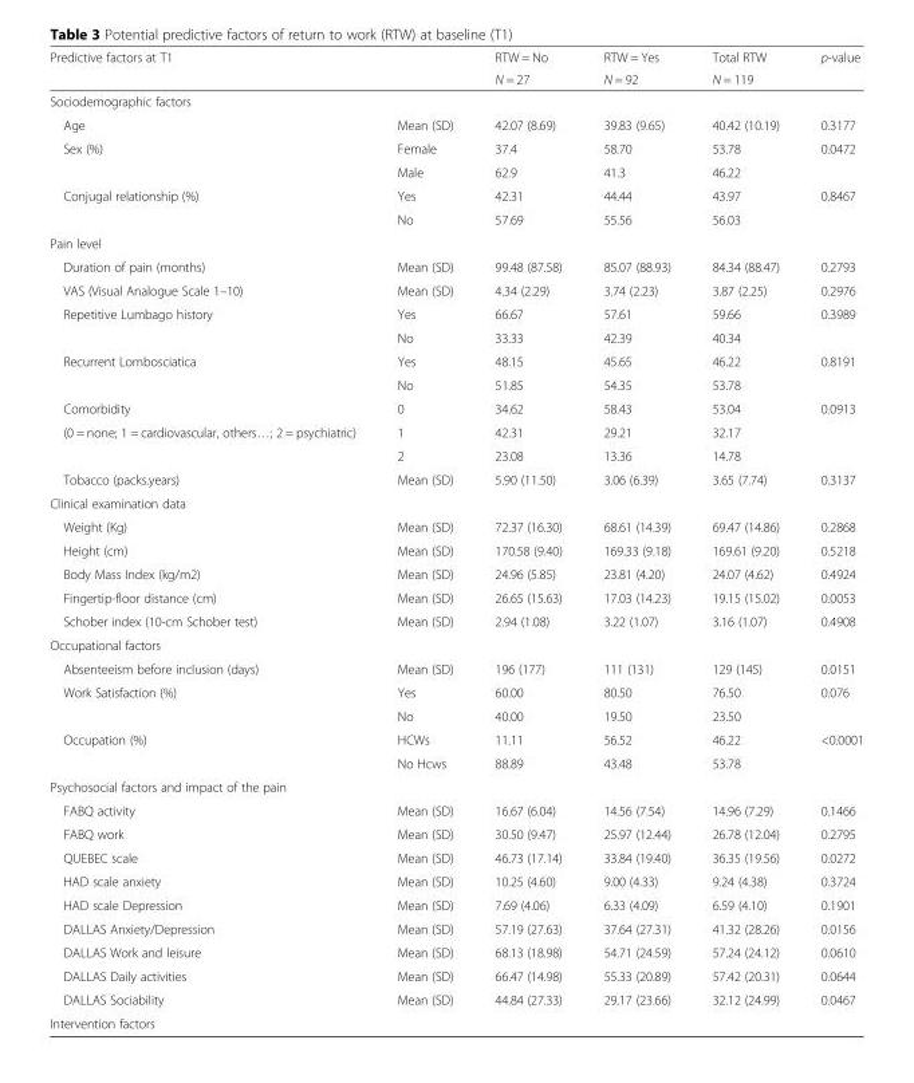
<table><thead><tr><td colspan="2">Predictive factors at T1</td><td rowspan="2">RTW = No N = 27</td><td rowspan="2">RTW = Yes N = 92</td><td rowspan="2">Total RTW N = 119</td><td rowspan="2">p-value</td></tr><tr><td></td><td></td></tr></thead><tbody><tr><td colspan="6">Sociodemographic factors</td></tr><tr><td>Age</td><td>Mean (SD)</td><td>42.07 (8.69)</td><td>39.83 (9.65)</td><td>40.42 (10.19)</td><td>0.3177</td></tr><tr><td rowspan="2">Sex (%)</td><td>Female</td><td>37.4</td><td>58.70</td><td>53.78</td><td>0.0472</td></tr><tr><td>Male</td><td>62.9</td><td>41.3</td><td>46.22</td><td></td></tr><tr><td rowspan="2">Conjugal relationship (%)</td><td>Yes</td><td>42.31</td><td>44.44</td><td>43.97</td><td>0.8467</td></tr><tr><td>No</td><td>57.69</td><td>55.56</td><td>56.03</td><td></td></tr><tr><td colspan="6">Pain level</td></tr><tr><td>Duration of pain (months)</td><td>Mean (SD)</td><td>99.48 (87.58)</td><td>85.07 (88.93)</td><td>84.34 (88.47)</td><td>0.2793</td></tr><tr><td>VAS (Visual Analogue Scale 1–10)</td><td>Mean (SD)</td><td>4.34 (2.29)</td><td>3.74 (2.23)</td><td>3.87 (2.25)</td><td>0.2976</td></tr><tr><td rowspan="2">Repetitive Lumbago history</td><td>Yes</td><td>66.67</td><td>57.61</td><td>59.66</td><td>0.3989</td></tr><tr><td>No</td><td>33.33</td><td>42.39</td><td>40.34</td><td></td></tr><tr><td rowspan="2">Recurrent Lombosciatica</td><td>Yes</td><td>48.15</td><td>45.65</td><td>46.22</td><td>0.8191</td></tr><tr><td>No</td><td>51.85</td><td>54.35</td><td>53.78</td><td></td></tr><tr><td>Comorbidity</td><td>0</td><td>34.62</td><td>58.43</td><td>53.04</td><td>0.0913</td></tr><tr><td rowspan="2">(0 = none; 1 = cardiovascular, others…; 2 = psychiatric)</td><td>1</td><td>42.31</td><td>29.21</td><td>32.17</td><td></td></tr><tr><td>2</td><td>23.08</td><td>13.36</td><td>14.78</td><td></td></tr><tr><td>Tobacco (packs.years)</td><td>Mean (SD)</td><td>5.90 (11.50)</td><td>3.06 (6.39)</td><td>3.65 (7.74)</td><td>0.3137</td></tr><tr><td colspan="6">Clinical examination data</td></tr><tr><td>Weight (Kg)</td><td>Mean (SD)</td><td>72.37 (16.30)</td><td>68.61 (14.39)</td><td>69.47 (14.86)</td><td>0.2868</td></tr><tr><td>Height (cm)</td><td>Mean (SD)</td><td>170.58 (9.40)</td><td>169.33 (9.18)</td><td>169.61 (9.20)</td><td>0.5218</td></tr><tr><td>Body Mass Index (kg/m2)</td><td>Mean (SD)</td><td>24.96 (5.85)</td><td>23.81 (4.20)</td><td>24.07 (4.62)</td><td>0.4924</td></tr><tr><td>Fingertip-floor distance (cm)</td><td>Mean (SD)</td><td>26.65 (15.63)</td><td>17.03 (14.23)</td><td>19.15 (15.02)</td><td>0.0053</td></tr><tr><td>Schober index (10-cm Schober test)</td><td>Mean (SD)</td><td>2.94 (1.08)</td><td>3.22 (1.07)</td><td>3.16 (1.07)</td><td>0.4908</td></tr><tr><td colspan="6">Occupational factors</td></tr><tr><td>Absenteeism before inclusion (days)</td><td>Mean (SD)</td><td>196 (177)</td><td>111 (131)</td><td>129 (145)</td><td>0.0151</td></tr><tr><td rowspan="2">Work Satisfaction (%)</td><td>Yes</td><td>60.00</td><td>80.50</td><td>76.50</td><td>0.076</td></tr><tr><td>No</td><td>40.00</td><td>19.50</td><td>23.50</td><td></td></tr><tr><td rowspan="2">Occupation (%)</td><td>HCWs</td><td>11.11</td><td>56.52</td><td>46.22</td><td>&lt;0.0001</td></tr><tr><td>No Hcws</td><td>88.89</td><td>43.48</td><td>53.78</td><td></td></tr><tr><td colspan="6">Psychosocial factors and impact of the pain</td></tr><tr><td>FABQ activity</td><td>Mean (SD)</td><td>16.67 (6.04)</td><td>14.56 (7.54)</td><td>14.96 (7.29)</td><td>0.1466</td></tr><tr><td>FABQ work</td><td>Mean (SD)</td><td>30.50 (9.47)</td><td>25.97 (12.44)</td><td>26.78 (12.04)</td><td>0.2795</td></tr><tr><td>QUEBEC scale</td><td>Mean (SD)</td><td>46.73 (17.14)</td><td>33.84 (19.40)</td><td>36.35 (19.56)</td><td>0.0272</td></tr><tr><td>HAD scale anxiety</td><td>Mean (SD)</td><td>10.25 (4.60)</td><td>9.00 (4.33)</td><td>9.24 (4.38)</td><td>0.3724</td></tr><tr><td>HAD scale Depression</td><td>Mean (SD)</td><td>7.69 (4.06)</td><td>6.33 (4.09)</td><td>6.59 (4.10)</td><td>0.1901</td></tr><tr><td>DALLAS Anxiety/Depression</td><td>Mean (SD)</td><td>57.19 (27.63)</td><td>37.64 (27.31)</td><td>41.32 (28.26)</td><td>0.0156</td></tr><tr><td>DALLAS Work and leisure</td><td>Mean (SD)</td><td>68.13 (18.98)</td><td>54.71 (24.59)</td><td>57.24 (24.12)</td><td>0.0610</td></tr><tr><td>DALLAS Daily activities</td><td>Mean (SD)</td><td>66.47 (14.98)</td><td>55.33 (20.89)</td><td>57.42 (20.31)</td><td>0.0644</td></tr><tr><td>DALLAS Sociability</td><td>Mean (SD)</td><td>44.84 (27.33)</td><td>29.17 (23.66)</td><td>32.12 (24.99)</td><td>0.0467</td></tr><tr><td colspan="6">Intervention factors</td></tr></tbody></table>